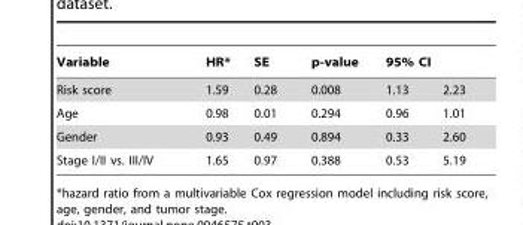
<table><thead><tr><td rowspan="2">Variable Risk score</td><td rowspan="2">HR* 1.59</td><td rowspan="2">SE 0.28</td><td rowspan="2">p-value 0.008</td><td colspan="2">95% CI</td></tr><tr><td>1.13</td><td>2.23</td></tr></thead><tbody><tr><td>Age</td><td>0.98</td><td>0.01</td><td>0.294</td><td>0.96</td><td>1.01</td></tr><tr><td>Gender</td><td>0.93</td><td>0.49</td><td>0.894</td><td>0.33</td><td>2.60</td></tr><tr><td>Stage I/II vs. III/IV</td><td>1.65</td><td>0.97</td><td>0.388</td><td>0.53</td><td>5.19</td></tr></tbody></table>